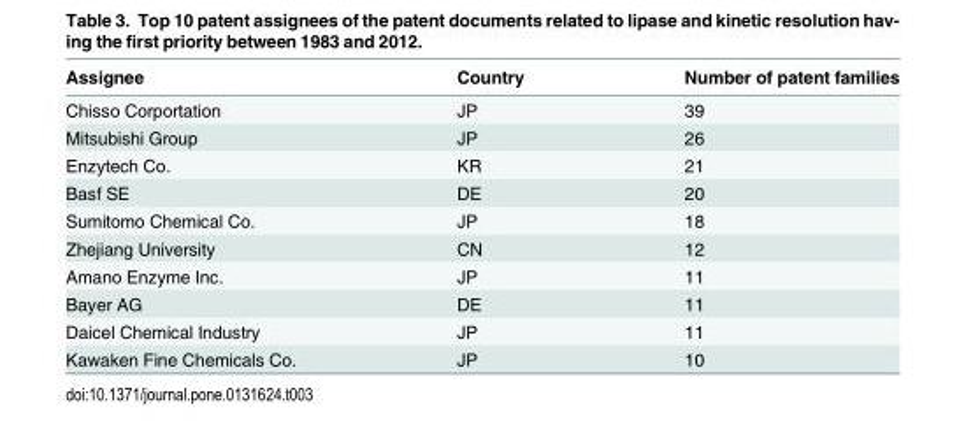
<table><thead><tr><td>Assignee</td><td>Country</td><td>Number of patent families</td></tr></thead><tbody><tr><td>Chisso Corportation</td><td>JP</td><td>39</td></tr><tr><td>Mitsubishi Group</td><td>JP</td><td>26</td></tr><tr><td>Enzytech Co.</td><td>KR</td><td>21</td></tr><tr><td>Basf SE</td><td>DE</td><td>20</td></tr><tr><td>Sumitomo Chemical Co.</td><td>JP</td><td>18</td></tr><tr><td>Zhejiang University</td><td>CN</td><td>12</td></tr><tr><td>Amano Enzyme Inc.</td><td>JP</td><td>11</td></tr><tr><td>Bayer AG</td><td>DE</td><td>11</td></tr><tr><td>Daicel Chemical Industry</td><td>JP</td><td>11</td></tr><tr><td>Kawaken Fine Chemicals Co.</td><td>JP</td><td>10</td></tr></tbody></table>